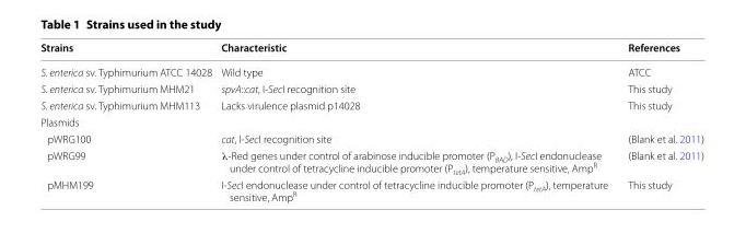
<table><thead><tr><td>Strains</td><td>Characteristic</td><td>References</td></tr></thead><tbody><tr><td>S. enterica sv. Typhimurium ATCC 14028</td><td>Wild type</td><td>ATCC</td></tr><tr><td>S. enterica sv. Typhimurium MHM21</td><td>spvA::cat, I-SecI recognition site</td><td>This study</td></tr><tr><td>S. enterica sv. Typhimurium MHM113</td><td>Lacks virulence plasmid p14028</td><td>This study</td></tr><tr><td colspan="3">Plasmids</td></tr><tr><td>pWRG100</td><td>cat, I-SecI recognition site</td><td>(Blank et al. 2011)</td></tr><tr><td>pWRG99</td><td>λ-Red genes under control of arabinose inducible promoter (P<sub>BAD</sub>), I-SecI endonuclease under control of tetracycline inducible promoter (P<sub>tetA</sub>), temperature sensitive, Amp<sup>R</sup></td><td>(Blank et al. 2011)</td></tr><tr><td>pMHM199</td><td>I-SecI endonuclease under control of tetracycline inducible promoter (P<sub>tetA</sub>), temperature sensitive, Amp<sup>R</sup></td><td>This study</td></tr></tbody></table>